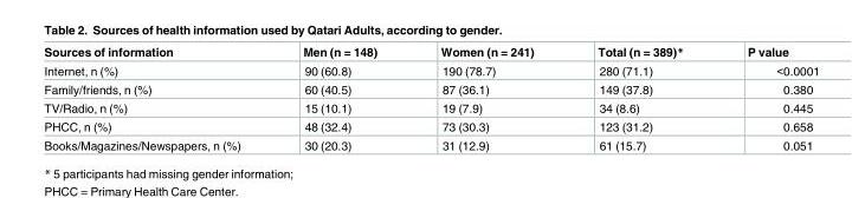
<table><thead><tr><td>Sources of information</td><td>Men (n = 148)</td><td>Women (n = 241)</td><td>Total (n = 389)*</td><td>P value</td></tr></thead><tbody><tr><td>Internet, n (%)</td><td>90 (60.8)</td><td>190 (78.7)</td><td>280 (71.1)</td><td>&lt;0.0001</td></tr><tr><td>Family/friends, n (%)</td><td>60 (40.5)</td><td>87 (36.1)</td><td>149 (37.8)</td><td>0.380</td></tr><tr><td>TV/Radio, n (%)</td><td>15 (10.1)</td><td>19 (7.9)</td><td>34 (8.6)</td><td>0.445</td></tr><tr><td>PHCC, n (%)</td><td>48 (32.4)</td><td>73 (30.3)</td><td>123 (31.2)</td><td>0.658</td></tr><tr><td>Books/Magazines/Newspapers, n (%)</td><td>30 (20.3)</td><td>31 (12.9)</td><td>61 (15.7)</td><td>0.051</td></tr></tbody></table>